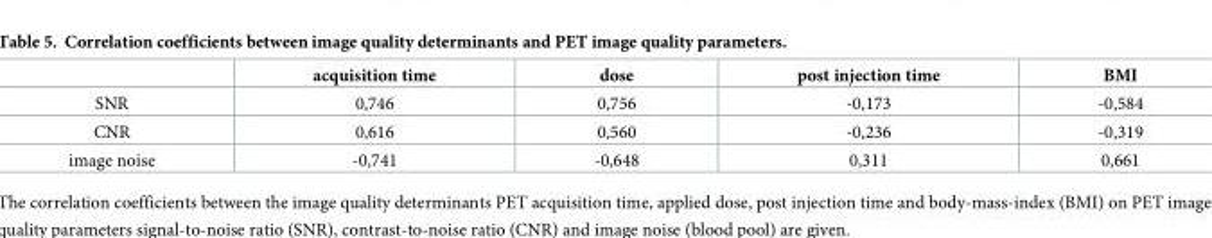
<table><thead><tr><td></td><td>acquisition time</td><td>dose</td><td>post injection time</td><td>BMI</td></tr></thead><tbody><tr><td>SNR</td><td>0,746</td><td>0,756</td><td>-0,173</td><td>-0,584</td></tr><tr><td>CNR</td><td>0,616</td><td>0,560</td><td>-0,236</td><td>-0,319</td></tr><tr><td>image noise</td><td>-0,741</td><td>-0,648</td><td>0,311</td><td>0,661</td></tr></tbody></table>